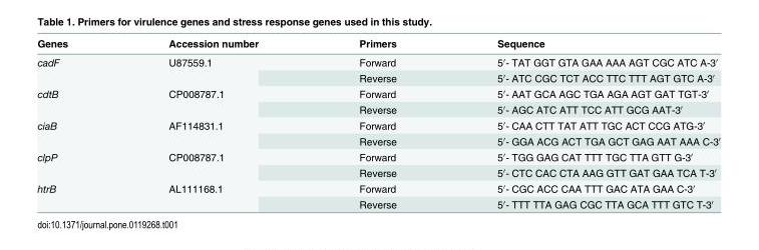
<table><thead><tr><td>Genes</td><td>Accession number</td><td>Primers</td><td>Sequence</td></tr></thead><tbody><tr><td rowspan="2">cadF</td><td rowspan="2">U87559.1</td><td>Forward</td><td>5′- TAT GGT GTA GAA AAA AGT CGC ATC A-3′</td></tr><tr><td>Reverse</td><td>5′- ATC CGC TCT ACC TTC TTT AGT GTC A-3′</td></tr><tr><td rowspan="2">cdtB</td><td rowspan="2">CP008787.1</td><td>Forward</td><td>5′- AAT GCA AGC TGA AGA AGT GAT TGT-3′</td></tr><tr><td>Reverse</td><td>5′- AGC ATC ATT TCC ATT GCG AAT-3′</td></tr><tr><td rowspan="2">ciaB</td><td rowspan="2">AF114831.1</td><td>Forward</td><td>5′- CAA CTT TAT ATT TGC ACT CCG ATG-3′</td></tr><tr><td>Reverse</td><td>5′- GGA ACG ACT TGA GCT GAG AAT AAA C-3′</td></tr><tr><td rowspan="2">clpP</td><td rowspan="2">CP008787.1</td><td>Forward</td><td>5′- TGG GAG CAT TTT TGC TTA GTT G-3′</td></tr><tr><td>Reverse</td><td>5′- CTC CAC CTA AAG GTT GAT GAA TCA T-3′</td></tr><tr><td rowspan="2">htrB</td><td rowspan="2">AL111168.1</td><td>Forward</td><td>5′- CGC ACC CAA TTT GAC ATA GAA C-3′</td></tr><tr><td>Reverse</td><td>5′- TTT TTA GAG CGC TTA GCA TTT GTC T-3′</td></tr></tbody></table>